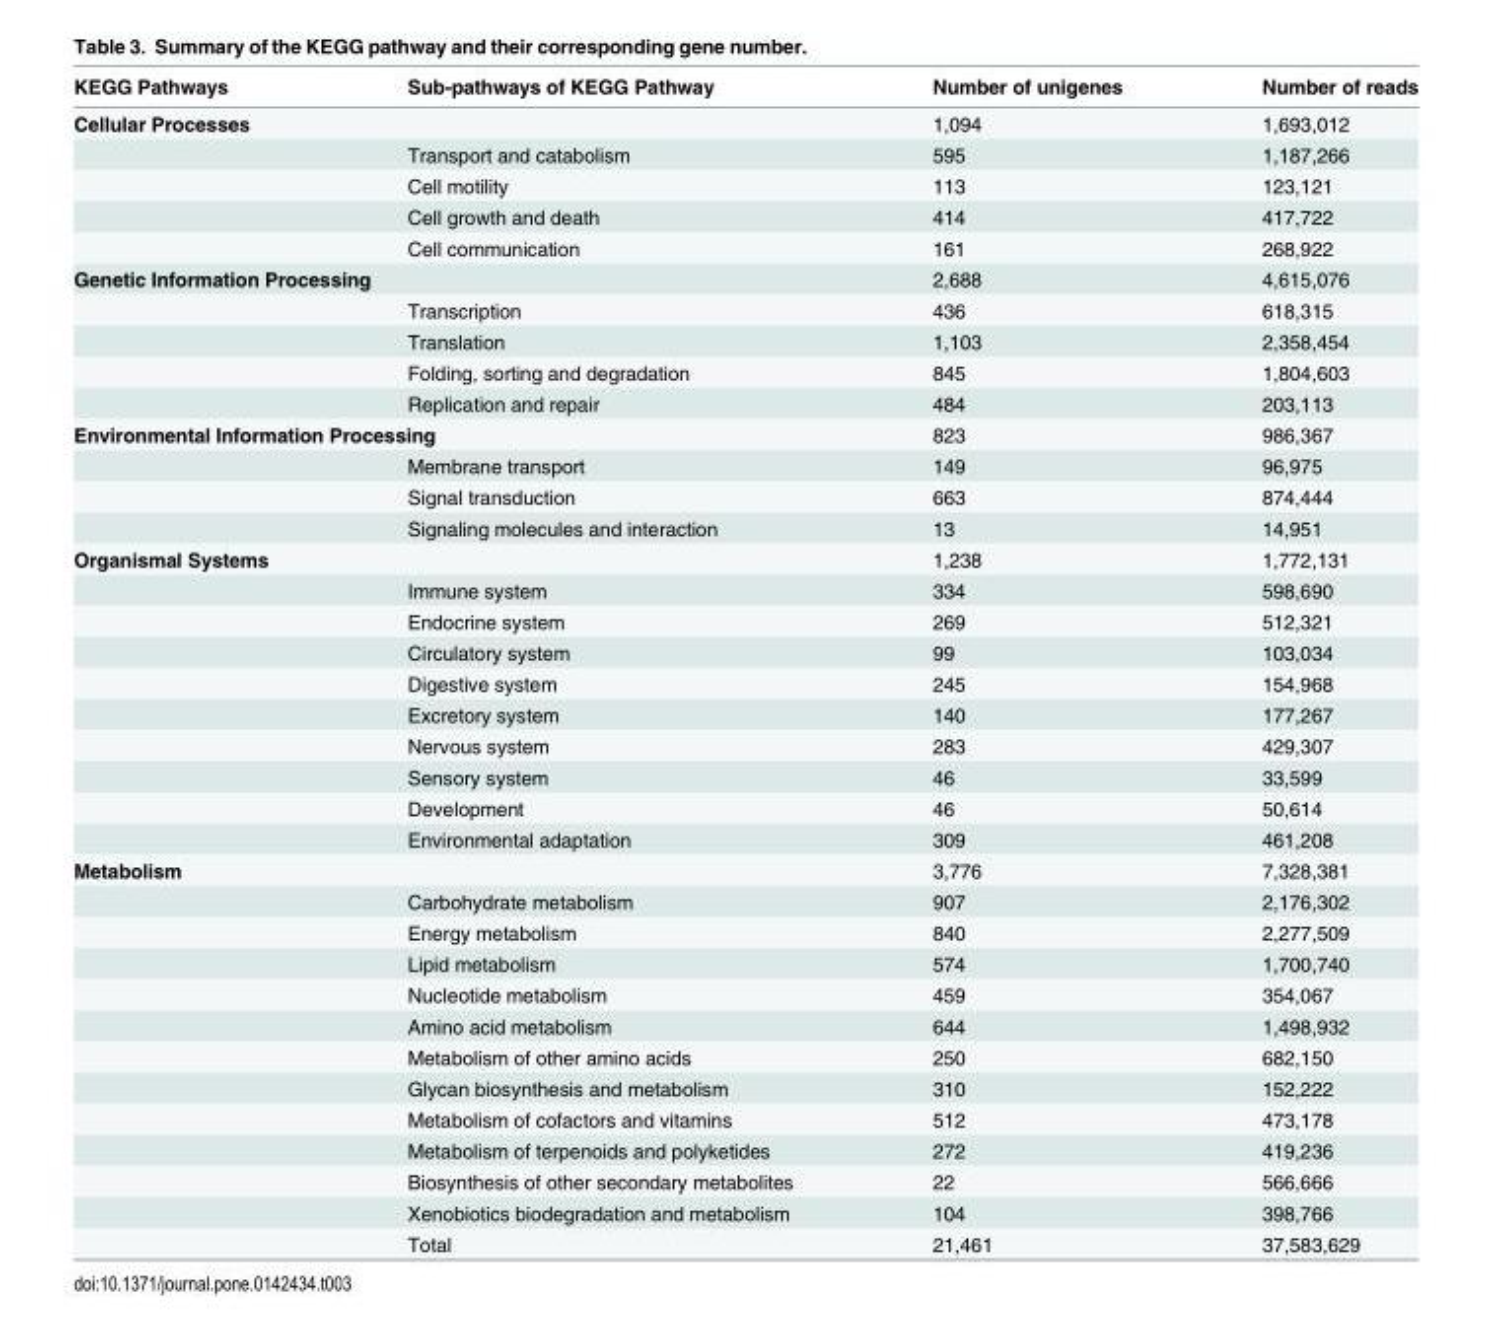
<table><thead><tr><td>KEGG Pathways</td><td>Sub-pathways of KEGG Pathway</td><td>Number of unigenes</td><td>Number of reads</td></tr></thead><tbody><tr><td rowspan="5">Cellular Processes</td><td></td><td>1,094</td><td>1,693,012</td></tr><tr><td>Transport and catabolism</td><td>595</td><td>1,187,266</td></tr><tr><td>Cell motility</td><td>113</td><td>123,121</td></tr><tr><td>Cell growth and death</td><td>414</td><td>417,722</td></tr><tr><td>Cell communication</td><td>161</td><td>268,922</td></tr><tr><td colspan="2">Genetic Information Processing</td><td>2,688</td><td>4,615,076</td></tr><tr><td></td><td>Transcription</td><td>436</td><td>618,315</td></tr><tr><td></td><td>Translation</td><td>1,103</td><td>2,358,454</td></tr><tr><td></td><td>Folding, sorting and degradation</td><td>845</td><td>1,804,603</td></tr><tr><td></td><td>Replication and repair</td><td>484</td><td>203,113</td></tr><tr><td colspan="2">Environmental Information Processing</td><td>823</td><td>986,367</td></tr><tr><td></td><td>Membrane transport</td><td>149</td><td>96,975</td></tr><tr><td></td><td>Signal transduction</td><td>663</td><td>874,444</td></tr><tr><td></td><td>Signaling molecules and interaction</td><td>13</td><td>14,951</td></tr><tr><td rowspan="10">Organismal Systems</td><td></td><td>1,238</td><td>1,772,131</td></tr><tr><td>Immune system</td><td>334</td><td>598,690</td></tr><tr><td>Endocrine system</td><td>269</td><td>512,321</td></tr><tr><td>Circulatory system</td><td>99</td><td>103,034</td></tr><tr><td>Digestive system</td><td>245</td><td>154,968</td></tr><tr><td>Excretory system</td><td>140</td><td>177,267</td></tr><tr><td>Nervous system</td><td>283</td><td>429,307</td></tr><tr><td>Sensory system</td><td>46</td><td>33,599</td></tr><tr><td>Development</td><td>46</td><td>50,614</td></tr><tr><td>Environmental adaptation</td><td>309</td><td>461,208</td></tr><tr><td rowspan="13">Metabolism</td><td></td><td>3,776</td><td>7,328,381</td></tr><tr><td>Carbohydrate metabolism</td><td>907</td><td>2,176,302</td></tr><tr><td>Energy metabolism</td><td>840</td><td>2,277,509</td></tr><tr><td>Lipid metabolism</td><td>574</td><td>1,700,740</td></tr><tr><td>Nucleotide metabolism</td><td>459</td><td>354,067</td></tr><tr><td>Amino acid metabolism</td><td>644</td><td>1,498,932</td></tr><tr><td>Metabolism of other amino acids</td><td>250</td><td>682,150</td></tr><tr><td>Glycan biosynthesis and metabolism</td><td>310</td><td>152,222</td></tr><tr><td>Metabolism of cofactors and vitamins</td><td>512</td><td>473,178</td></tr><tr><td>Metabolism of terpenoids and polyketides</td><td>272</td><td>419,236</td></tr><tr><td>Biosynthesis of other secondary metabolites</td><td>22</td><td>566,666</td></tr><tr><td>Xenobiotics biodegradation and metabolism</td><td>104</td><td>398,766</td></tr><tr><td>Total</td><td>21,461</td><td>37,583,629</td></tr></tbody></table>